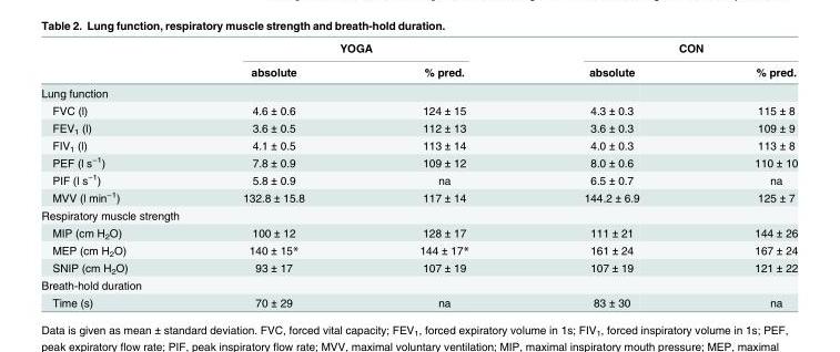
<table><thead><tr><td rowspan="2"></td><td colspan="2">YOGA</td><td colspan="2">CON</td></tr><tr><td>absolute</td><td>% pred.</td><td>absolute</td><td>% pred.</td></tr></thead><tbody><tr><td colspan="5">Lung function</td></tr><tr><td>FVC (l)</td><td>4.6 ± 0.6</td><td>124 ± 15</td><td>4.3 ± 0.3</td><td>115 ± 8</td></tr><tr><td>FEV<sub>1</sub> (l)</td><td>3.6 ± 0.5</td><td>112 ± 13</td><td>3.6 ± 0.3</td><td>109 ± 9</td></tr><tr><td>FIV<sub>1</sub> (l)</td><td>4.1 ± 0.5</td><td>113 ± 14</td><td>4.0 ± 0.3</td><td>113 ± 8</td></tr><tr><td>PEF (l s<sup>−1</sup>)</td><td>7.8 ± 0.9</td><td>109 ± 12</td><td>8.0 ± 0.6</td><td>110 ± 10</td></tr><tr><td>PIF (l s<sup>−1</sup>)</td><td>5.8 ± 0.9</td><td>na</td><td>6.5 ± 0.7</td><td>na</td></tr><tr><td>MVV (l min<sup>−1</sup>)</td><td>132.8 ± 15.8</td><td>117 ± 14</td><td>144.2 ± 6.9</td><td>125 ± 7</td></tr><tr><td colspan="5">Respiratory muscle strength</td></tr><tr><td>MIP (cm H<sub>2</sub>O)</td><td>100 ± 12</td><td>128 ± 17</td><td>111 ± 21</td><td>144 ± 26</td></tr><tr><td>MEP (cm H<sub>2</sub>O)</td><td>140 ± 15*</td><td>144 ± 17*</td><td>161 ± 24</td><td>167 ± 24</td></tr><tr><td>SNIP (cm H<sub>2</sub>O)</td><td>93 ± 17</td><td>107 ± 19</td><td>107 ± 19</td><td>121 ± 22</td></tr><tr><td colspan="5">Breath-hold duration</td></tr><tr><td>Time (s)</td><td>70 ± 29</td><td>na</td><td>83 ± 30</td><td>na</td></tr></tbody></table>